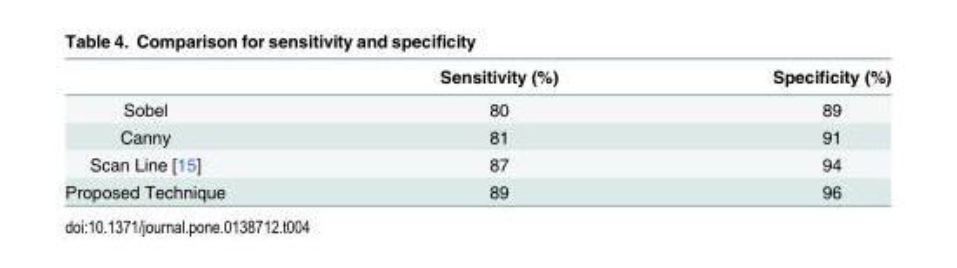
<table><thead><tr><td></td><td>Sensitivity (%)</td><td>Specificity (%)</td></tr></thead><tbody><tr><td>Sobel</td><td>80</td><td>89</td></tr><tr><td>Canny</td><td>81</td><td>91</td></tr><tr><td>Scan Line [15]</td><td>87</td><td>94</td></tr><tr><td>Proposed Technique</td><td>89</td><td>96</td></tr></tbody></table>